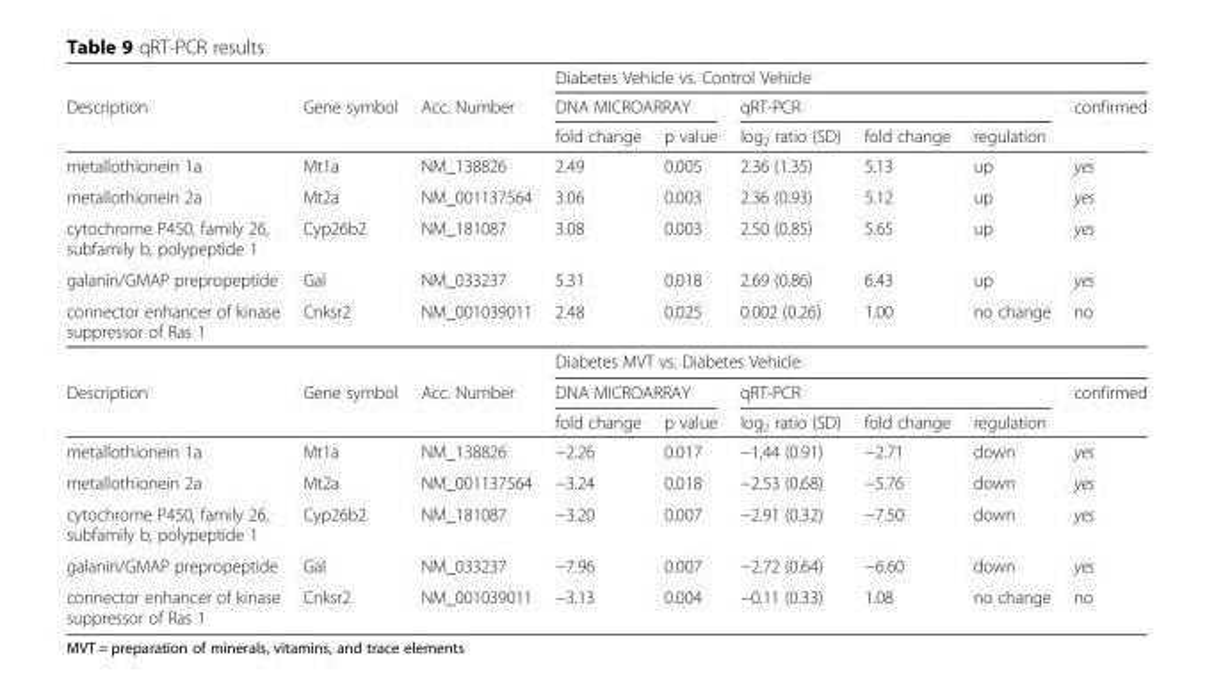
<table><thead><tr><td rowspan="3">Description</td><td rowspan="3">Gene symbol</td><td rowspan="3">Acc. Number</td><td colspan="6">Diabetes Vehicle vs. Control Vehicle</td></tr><tr><td colspan="2">DNA MICROARRAY</td><td colspan="3">qRT-PCR</td><td rowspan="2">confirmed</td></tr><tr><td>fold change</td><td>p value</td><td>log<sub>2</sub> ratio (SD)</td><td>fold change</td><td>regulation</td></tr></thead><tbody><tr><td>metallothionein 1a</td><td>Mt1a</td><td>NM_138826</td><td>2.49</td><td>0.005</td><td>2.36 (1.35)</td><td>5.13</td><td>up</td><td>yes</td></tr><tr><td>metallothionein 2a</td><td>Mt2a</td><td>NM_001137564</td><td>3.06</td><td>0.003</td><td>2.36 (0.93)</td><td>5.12</td><td>up</td><td>yes</td></tr><tr><td>cytochrome P450, family 26, subfamily b, polypeptide 1</td><td>Cyp26b2</td><td>NM_181087</td><td>3.08</td><td>0.003</td><td>2.50 (0.85)</td><td>5.65</td><td>up</td><td>yes</td></tr><tr><td>galanin/GMAP prepropeptide</td><td>Gal</td><td>NM_033237</td><td>5.31</td><td>0.018</td><td>2.69 (0.86)</td><td>6.43</td><td>up</td><td>yes</td></tr><tr><td rowspan="2">connector enhancer of kinase suppressor of Ras 1</td><td>Cnksr2</td><td>NM_001039011</td><td>2.48</td><td>0.025</td><td>0.002 (0.26)</td><td>1.00</td><td>no change</td><td>no</td></tr><tr><td></td><td></td><td colspan="6">Diabetes MVT vs. Diabetes Vehicle</td></tr><tr><td rowspan="2">Description</td><td rowspan="2">Gene symbol</td><td rowspan="2">Acc. Number</td><td colspan="2">DNA MICROARRAY</td><td colspan="3">qRT-PCR</td><td rowspan="2">confirmed</td></tr><tr><td>fold change</td><td>p value</td><td>log<sub>2</sub> ratio (SD)</td><td>fold change</td><td>regulation</td></tr><tr><td>metallothionein 1a</td><td>Mt1a</td><td>NM_138826</td><td>−2.26</td><td>0.017</td><td>−1,44 (0.91)</td><td>−2.71</td><td>down</td><td>yes</td></tr><tr><td>metallothionein 2a</td><td>Mt2a</td><td>NM_001137564</td><td>−3.24</td><td>0.018</td><td>−2.53 (0.68)</td><td>−5.76</td><td>down</td><td>yes</td></tr><tr><td>cytochrome P450, family 26, subfamily b, polypeptide 1</td><td>Cyp26b2</td><td>NM_181087</td><td>−3.20</td><td>0.007</td><td>−2.91 (0.32)</td><td>−7.50</td><td>down</td><td>yes</td></tr><tr><td>galanin/GMAP prepropeptide</td><td>Gal</td><td>NM_033237</td><td>−7.96</td><td>0.007</td><td>−2.72 (0.64)</td><td>−6.60</td><td>down</td><td>yes</td></tr><tr><td>connector enhancer of kinase suppressor of Ras 1</td><td>Cnksr2</td><td>NM_001039011</td><td>−3.13</td><td>0.004</td><td>−0.11 (0.33)</td><td>1.08</td><td>no change</td><td>no</td></tr></tbody></table>